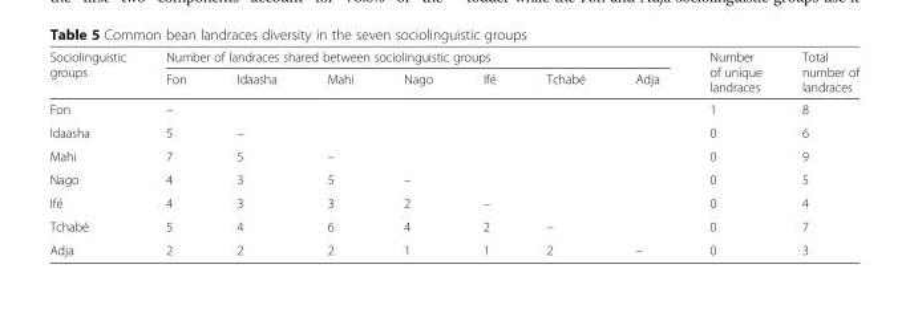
<table><thead><tr><td rowspan="2">Sociolinguistic groups</td><td colspan="7">Number of landraces shared between sociolinguistic groups</td><td rowspan="2">Number of unique landraces</td><td rowspan="2">Total number of landraces</td></tr><tr><td>Fon</td><td>Idaasha</td><td>Mahi</td><td>Nago</td><td>Ifé</td><td>Tchabé</td><td>Adja</td></tr></thead><tbody><tr><td>Fon</td><td>–</td><td></td><td></td><td></td><td></td><td></td><td></td><td>1</td><td>8</td></tr><tr><td>Idaasha</td><td>5</td><td>–</td><td></td><td></td><td></td><td></td><td></td><td>0</td><td>6</td></tr><tr><td>Mahi</td><td>7</td><td>5</td><td>–</td><td></td><td></td><td></td><td></td><td>0</td><td>9</td></tr><tr><td>Nago</td><td>4</td><td>3</td><td>5</td><td>–</td><td></td><td></td><td></td><td>0</td><td>5</td></tr><tr><td>Ifé</td><td>4</td><td>3</td><td>3</td><td>2</td><td>–</td><td></td><td></td><td>0</td><td>4</td></tr><tr><td>Tchabé</td><td>5</td><td>4</td><td>6</td><td>4</td><td>2</td><td>–</td><td></td><td>0</td><td>7</td></tr><tr><td>Adja</td><td>2</td><td>2</td><td>2</td><td>1</td><td>1</td><td>2</td><td>–</td><td>0</td><td>3</td></tr></tbody></table>